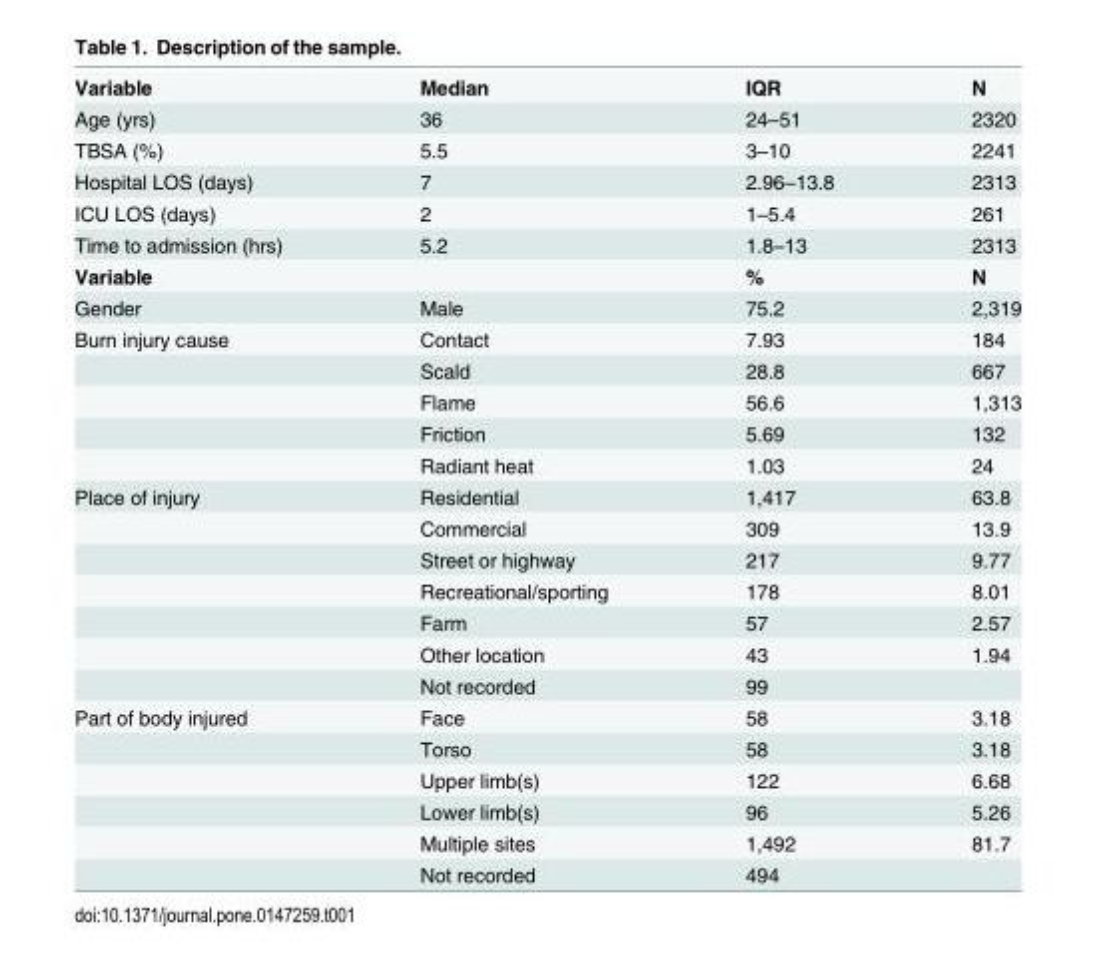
<table><tbody><tr><td>Variable</td><td>Median</td><td>IQR</td><td>N</td></tr><tr><td>Age (yrs)</td><td>36</td><td>24–51</td><td>2320</td></tr><tr><td>TBSA (%)</td><td>5.5</td><td>3–10</td><td>2241</td></tr><tr><td>Hospital LOS (days)</td><td>7</td><td>2.96–13.8</td><td>2313</td></tr><tr><td>ICU LOS (days)</td><td>2</td><td>1–5.4</td><td>261</td></tr><tr><td>Time to admission (hrs)</td><td>5.2</td><td>1.8–13</td><td>2313</td></tr><tr><td colspan="2">Variable</td><td>%</td><td>N</td></tr><tr><td>Gender</td><td>Male</td><td>75.2</td><td>2,319</td></tr><tr><td rowspan="5">Burn injury cause</td><td>Contact</td><td>7.93</td><td>184</td></tr><tr><td>Scald</td><td>28.8</td><td>667</td></tr><tr><td>Flame</td><td>56.6</td><td>1,313</td></tr><tr><td>Friction</td><td>5.69</td><td>132</td></tr><tr><td>Radiant heat</td><td>1.03</td><td>24</td></tr><tr><td rowspan="7">Place of injury</td><td>Residential</td><td>1,417</td><td>63.8</td></tr><tr><td>Commercial</td><td>309</td><td>13.9</td></tr><tr><td>Street or highway</td><td>217</td><td>9.77</td></tr><tr><td>Recreational/sporting</td><td>178</td><td>8.01</td></tr><tr><td>Farm</td><td>57</td><td>2.57</td></tr><tr><td>Other location</td><td>43</td><td>1.94</td></tr><tr><td>Not recorded</td><td>99</td><td></td></tr><tr><td rowspan="6">Part of body injured</td><td>Face</td><td>58</td><td>3.18</td></tr><tr><td>Torso</td><td>58</td><td>3.18</td></tr><tr><td>Upper limb(s)</td><td>122</td><td>6.68</td></tr><tr><td>Lower limb(s)</td><td>96</td><td>5.26</td></tr><tr><td>Multiple sites</td><td>1,492</td><td>81.7</td></tr><tr><td>Not recorded</td><td>494</td><td></td></tr></tbody></table>